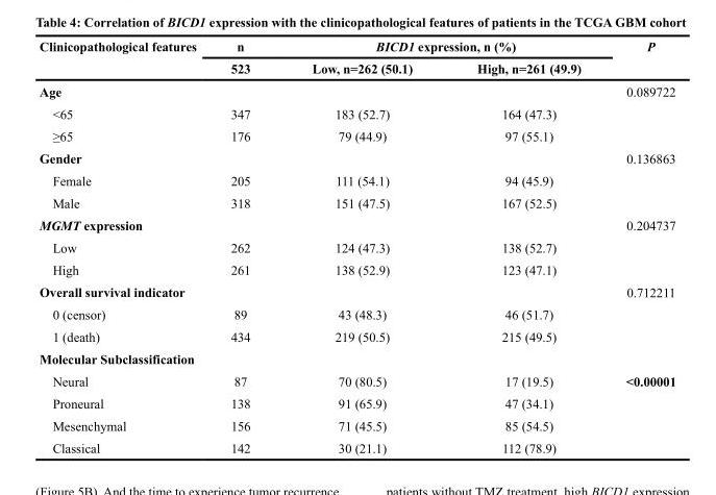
<table><thead><tr><td rowspan="2">Clinicopathological features</td><td rowspan="2">n 523</td><td colspan="2">BICD1 expression, n (%)</td><td rowspan="2">P</td></tr><tr><td>Low, n=262 (50.1)</td><td>High, n=261 (49.9)</td></tr></thead><tbody><tr><td>Age</td><td></td><td></td><td></td><td>0.089722</td></tr><tr><td>&lt;65</td><td>347</td><td>183 (52.7)</td><td>164 (47.3)</td><td></td></tr><tr><td>≥65</td><td>176</td><td>79 (44.9)</td><td>97 (55.1)</td><td></td></tr><tr><td>Gender</td><td></td><td></td><td></td><td>0.136863</td></tr><tr><td>Female</td><td>205</td><td>111 (54.1)</td><td>94 (45.9)</td><td></td></tr><tr><td>Male</td><td>318</td><td>151 (47.5)</td><td>167 (52.5)</td><td></td></tr><tr><td>MGMT expression</td><td></td><td></td><td></td><td>0.204737</td></tr><tr><td>Low</td><td>262</td><td>124 (47.3)</td><td>138 (52.7)</td><td></td></tr><tr><td>High</td><td>261</td><td>138 (52.9)</td><td>123 (47.1)</td><td></td></tr><tr><td>Overall survival indicator</td><td></td><td></td><td></td><td>0.712211</td></tr><tr><td>0 (censor)</td><td>89</td><td>43 (48.3)</td><td>46 (51.7)</td><td></td></tr><tr><td>1 (death)</td><td>434</td><td>219 (50.5)</td><td>215 (49.5)</td><td></td></tr><tr><td colspan="5">Molecular Subclassification</td></tr><tr><td>Neural</td><td>87</td><td>70 (80.5)</td><td>17 (19.5)</td><td>&lt;0.00001</td></tr><tr><td>Proneural</td><td>138</td><td>91 (65.9)</td><td>47 (34.1)</td><td></td></tr><tr><td>Mesenchymal</td><td>156</td><td>71 (45.5)</td><td>85 (54.5)</td><td></td></tr><tr><td>Classical</td><td>142</td><td>30 (21.1)</td><td>112 (78.9)</td><td></td></tr></tbody></table>